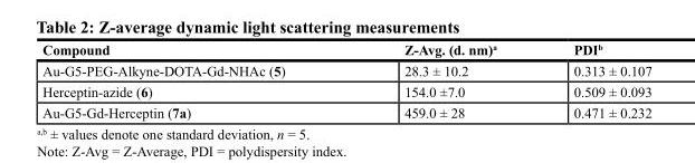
<table><thead><tr><td>Compound</td><td>Z-Avg. (d. nm)<sup>a</sup></td><td>PDI<sup>b</sup></td></tr></thead><tbody><tr><td>Au-G5-PEG-Alkyne-DOTA-Gd-NHAc (5)</td><td>28.3 ± 10.2</td><td>0.313 ± 0.107</td></tr><tr><td>Herceptin-azide (6)</td><td>154.0 ±7.0</td><td>0.509 ± 0.093</td></tr><tr><td>Au-G5-Gd-Herceptin (7a)</td><td>459.0 ± 28</td><td>0.471 ± 0.232</td></tr></tbody></table>